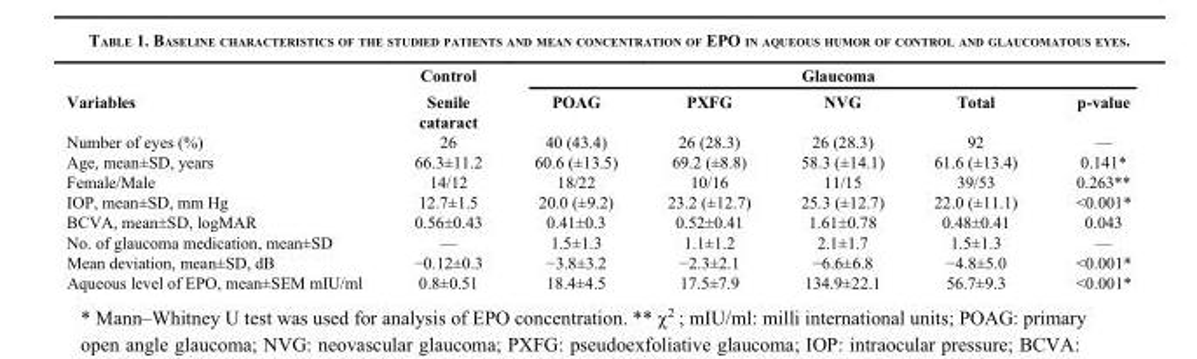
<table><thead><tr><td rowspan="2">Variables</td><td rowspan="2">Control Senile cataract</td><td colspan="4">Glaucoma</td><td rowspan="2">p-value</td></tr><tr><td>POAG</td><td>PXFG</td><td>NVG</td><td>Total</td></tr></thead><tbody><tr><td>Number of eyes (%)</td><td>26</td><td>40 (43.4)</td><td>26 (28.3)</td><td>26 (28.3)</td><td>92</td><td>—</td></tr><tr><td>Age, mean±SD, years</td><td>66.3±11.2</td><td>60.6 (±13.5)</td><td>69.2 (±8.8)</td><td>58.3 (±14.1)</td><td>61.6 (±13.4)</td><td>0.141*</td></tr><tr><td>Female/Male</td><td>14/12</td><td>18/22</td><td>10/16</td><td>11/15</td><td>39/53</td><td>0.263**</td></tr><tr><td>IOP, mean±SD, mm Hg</td><td>12.7±1.5</td><td>20.0 (±9.2)</td><td>23.2 (±12.7)</td><td>25.3 (±12.7)</td><td>22.0 (±11.1)</td><td>&lt;0.001*</td></tr><tr><td>BCVA, mean±SD, logMAR</td><td>0.56±0.43</td><td>0.41±0.3</td><td>0.52±0.41</td><td>1.61±0.78</td><td>0.48±0.41</td><td>0.043</td></tr><tr><td>No. of glaucoma medication, mean±SD</td><td>—</td><td>1.5±1.3</td><td>1.1±1.2</td><td>2.1±1.7</td><td>1.5±1.3</td><td>—</td></tr><tr><td>Mean deviation, mean±SD, dB</td><td>−0.12±0.3</td><td>−3.8±3.2</td><td>−2.3±2.1</td><td>−6.6±6.8</td><td>−4.8±5.0</td><td>&lt;0.001*</td></tr><tr><td>Aqueous level of EPO, mean±SEM mIU/ml</td><td>0.8±0.51</td><td>18.4±4.5</td><td>17.5±7.9</td><td>134.9±22.1</td><td>56.7±9.3</td><td>&lt;0.001*</td></tr></tbody></table>